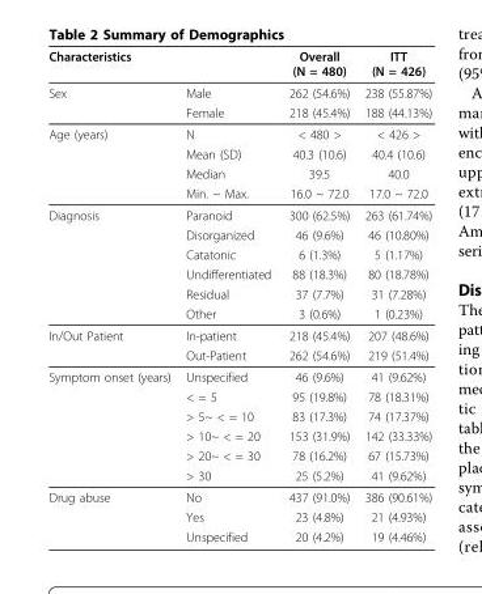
<table><thead><tr><td>Characteristics</td><td></td><td>Overall (N = 480)</td><td>ITT (N = 426)</td></tr></thead><tbody><tr><td rowspan="2">Sex</td><td>Male</td><td>262 (54.6%)</td><td>238 (55.87%)</td></tr><tr><td>Female</td><td>218 (45.4%)</td><td>188 (44.13%)</td></tr><tr><td rowspan="4">Age (years)</td><td>N</td><td>&lt; 480 &gt;</td><td>&lt; 426 &gt;</td></tr><tr><td>Mean (SD)</td><td>40.3 (10.6)</td><td>40.4 (10.6)</td></tr><tr><td>Median</td><td>39.5</td><td>40.0</td></tr><tr><td>Min. ~ Max.</td><td>16.0 ~ 72.0</td><td>17.0 ~ 72.0</td></tr><tr><td rowspan="6">Diagnosis</td><td>Paranoid</td><td>300 (62.5%)</td><td>263 (61.74%)</td></tr><tr><td>Disorganized</td><td>46 (9.6%)</td><td>46 (10.80%)</td></tr><tr><td>Catatonic</td><td>6 (1.3%)</td><td>5 (1.17%)</td></tr><tr><td>Undifferentiated</td><td>88 (18.3%)</td><td>80 (18.78%)</td></tr><tr><td>Residual</td><td>37 (7.7%)</td><td>31 (7.28%)</td></tr><tr><td>Other</td><td>3 (0.6%)</td><td>1 (0.23%)</td></tr><tr><td rowspan="2">In/Out Patient</td><td>In-patient</td><td>218 (45.4%)</td><td>207 (48.6%)</td></tr><tr><td>Out-Patient</td><td>262 (54.6%)</td><td>219 (51.4%)</td></tr><tr><td rowspan="6">Symptom onset (years)</td><td>Unspecified</td><td>46 (9.6%)</td><td>41 (9.62%)</td></tr><tr><td>&lt; = 5</td><td>95 (19.8%)</td><td>78 (18.31%)</td></tr><tr><td>&gt; 5~ &lt; = 10</td><td>83 (17.3%)</td><td>74 (17.37%)</td></tr><tr><td>&gt; 10~ &lt; = 20</td><td>153 (31.9%)</td><td>142 (33.33%)</td></tr><tr><td>&gt; 20~ &lt; = 30</td><td>78 (16.2%)</td><td>67 (15.73%)</td></tr><tr><td>&gt; 30</td><td>25 (5.2%)</td><td>41 (9.62%)</td></tr><tr><td rowspan="3">Drug abuse</td><td>No</td><td>437 (91.0%)</td><td>386 (90.61%)</td></tr><tr><td>Yes</td><td>23 (4.8%)</td><td>21 (4.93%)</td></tr><tr><td>Unspecified</td><td>20 (4.2%)</td><td>19 (4.46%)</td></tr></tbody></table>